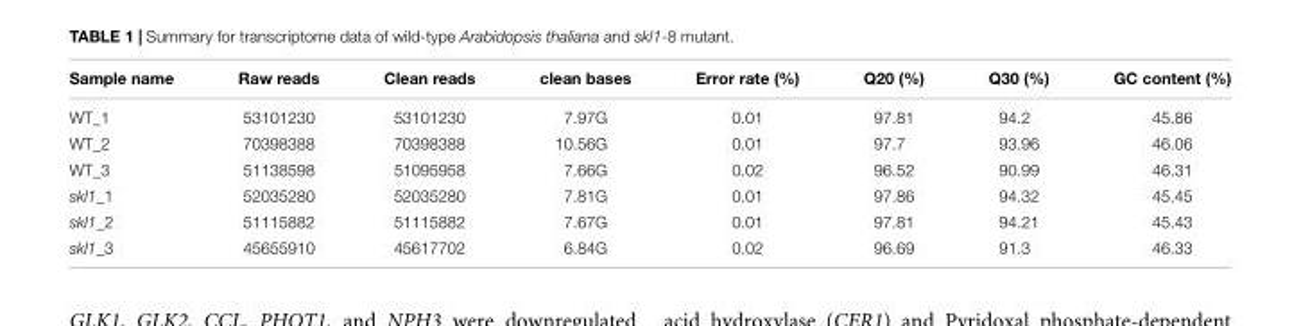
<table><thead><tr><td>Sample name</td><td>Raw reads</td><td>Clean reads</td><td>clean bases</td><td>Error rate (%)</td><td>Q20 (%)</td><td>Q30 (%)</td><td>GC content (%)</td></tr></thead><tbody><tr><td>WT_1</td><td>53101230</td><td>53101230</td><td>7.97G</td><td>0.01</td><td>97.81</td><td>94.2</td><td>45.86</td></tr><tr><td>WT_2</td><td>70398388</td><td>70398388</td><td>10.56G</td><td>0.01</td><td>97.7</td><td>93.96</td><td>46.06</td></tr><tr><td>WT_3</td><td>51138598</td><td>51095958</td><td>7.66G</td><td>0.02</td><td>96.52</td><td>90.99</td><td>46.31</td></tr><tr><td>skl1_1</td><td>52035280</td><td>52035280</td><td>7.81G</td><td>0.01</td><td>97.86</td><td>94.32</td><td>45.45</td></tr><tr><td>skl1_2</td><td>51115882</td><td>51115882</td><td>7.67G</td><td>0.01</td><td>97.81</td><td>94.21</td><td>45.43</td></tr><tr><td>skl1_3</td><td>45655910</td><td>45617702</td><td>6.84G</td><td>0.02</td><td>96.69</td><td>91.3</td><td>46.33</td></tr></tbody></table>